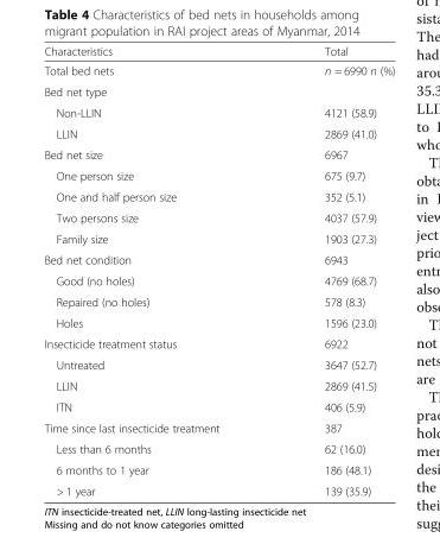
<table><thead><tr><td>Characteristics</td><td>Total</td></tr></thead><tbody><tr><td>Total bed nets</td><td>n = 6990 n (%)</td></tr><tr><td colspan="2">Bed net type</td></tr><tr><td>Non-LLIN</td><td>4121 (58.9)</td></tr><tr><td>LLIN</td><td>2869 (41.0)</td></tr><tr><td>Bed net size</td><td>6967</td></tr><tr><td>One person size</td><td>675 (9.7)</td></tr><tr><td>One and half person size</td><td>352 (5.1)</td></tr><tr><td>Two persons size</td><td>4037 (57.9)</td></tr><tr><td>Family size</td><td>1903 (27.3)</td></tr><tr><td>Bed net condition</td><td>6943</td></tr><tr><td>Good (no holes)</td><td>4769 (68.7)</td></tr><tr><td>Repaired (no holes)</td><td>578 (8.3)</td></tr><tr><td>Holes</td><td>1596 (23.0)</td></tr><tr><td>Insecticide treatment status</td><td>6922</td></tr><tr><td>Untreated</td><td>3647 (52.7)</td></tr><tr><td>LLIN</td><td>2869 (41.5)</td></tr><tr><td>ITN</td><td>406 (5.9)</td></tr><tr><td>Time since last insecticide treatment</td><td>387</td></tr><tr><td>Less than 6 months</td><td>62 (16.0)</td></tr><tr><td>6 months to 1 year</td><td>186 (48.1)</td></tr><tr><td>&gt; 1 year</td><td>139 (35.9)</td></tr></tbody></table>